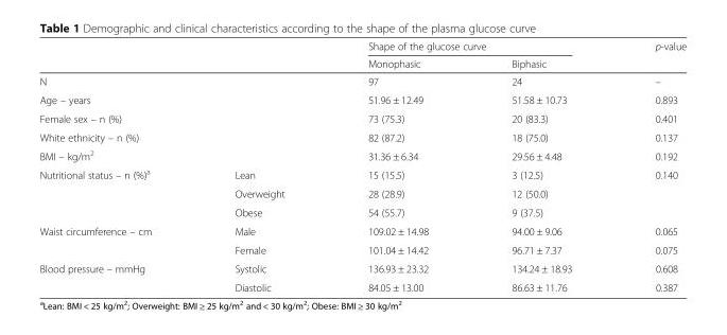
<table><thead><tr><td rowspan="2"></td><td rowspan="2"></td><td colspan="2">Shape of the glucose curve</td><td rowspan="2">p-value</td></tr><tr><td>Monophasic</td><td>Biphasic</td></tr></thead><tbody><tr><td colspan="2">N</td><td>97</td><td>24</td><td>–</td></tr><tr><td colspan="2">Age – years</td><td>51.96 ± 12.49</td><td>51.58 ± 10.73</td><td>0.893</td></tr><tr><td colspan="2">Female sex – n (%)</td><td>73 (75.3)</td><td>20 (83.3)</td><td>0.401</td></tr><tr><td colspan="2">White ethnicity – n (%)</td><td>82 (87.2)</td><td>18 (75.0)</td><td>0.137</td></tr><tr><td colspan="2">BMI – kg/m<sup>2</sup></td><td>31.36 ± 6.34</td><td>29.56 ± 4.48</td><td>0.192</td></tr><tr><td rowspan="3">Nutritional status – n (%)<sup>a</sup></td><td>Lean</td><td>15 (15.5)</td><td>3 (12.5)</td><td rowspan="3">0.140</td></tr><tr><td>Overweight</td><td>28 (28.9)</td><td>12 (50.0)</td></tr><tr><td>Obese</td><td>54 (55.7)</td><td>9 (37.5)</td></tr><tr><td rowspan="2">Waist circumference – cm</td><td>Male</td><td>109.02 ± 14.98</td><td>94.00 ± 9.06</td><td>0.065</td></tr><tr><td>Female</td><td>101.04 ± 14.42</td><td>96.71 ± 7.37</td><td>0.075</td></tr><tr><td rowspan="2">Blood pressure – mmHg</td><td>Systolic</td><td>136.93 ± 23.32</td><td>134.24 ± 18.93</td><td>0.608</td></tr><tr><td>Diastolic</td><td>84.05 ± 13.00</td><td>86.63 ± 11.76</td><td>0.387</td></tr></tbody></table>